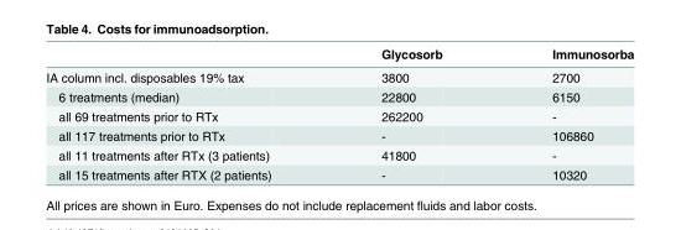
<table><thead><tr><td></td><td>Glycosorb</td><td>Immunosorba</td></tr></thead><tbody><tr><td>IA column incl. disposables 19% tax</td><td>3800</td><td>2700</td></tr><tr><td>6 treatments (median)</td><td>22800</td><td>6150</td></tr><tr><td>all 69 treatments prior to RTx</td><td>262200</td><td>-</td></tr><tr><td>all 117 treatments prior to RTx</td><td>-</td><td>106860</td></tr><tr><td>all 11 treatments after RTx (3 patients)</td><td>41800</td><td>-</td></tr><tr><td>all 15 treatments after RTX (2 patients)</td><td>-</td><td>10320</td></tr></tbody></table>